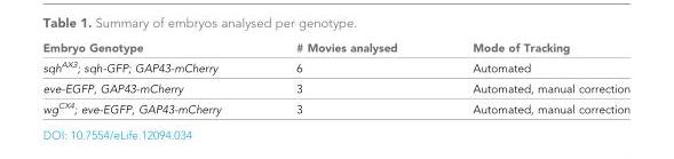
<table><thead><tr><td>Embryo Genotype</td><td># Movies analysed</td><td>Mode of Tracking</td></tr></thead><tbody><tr><td>sqh<sup>AX3</sup>; sqh-GFP; GAP43-mCherry</td><td>6</td><td>Automated</td></tr><tr><td>eve-EGFP, GAP43-mCherry</td><td>3</td><td>Automated, manual correction</td></tr><tr><td>wg<sup>CX4</sup>; eve-EGFP, GAP43-mCherry</td><td>3</td><td>Automated, manual correction</td></tr></tbody></table>